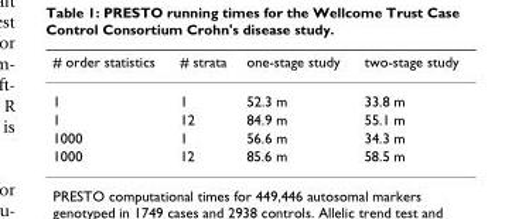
<table><thead><tr><td># order statistics</td><td># strata</td><td>one-stage study</td><td>two-stage study</td></tr></thead><tbody><tr><td>1</td><td>1</td><td>52.3 m</td><td>33.8 m</td></tr><tr><td>1</td><td>12</td><td>84.9 m</td><td>55.1 m</td></tr><tr><td>1000</td><td>1</td><td>56.6 m</td><td>34.3 m</td></tr><tr><td>1000</td><td>12</td><td>85.6 m</td><td>58.5 m</td></tr></tbody></table>